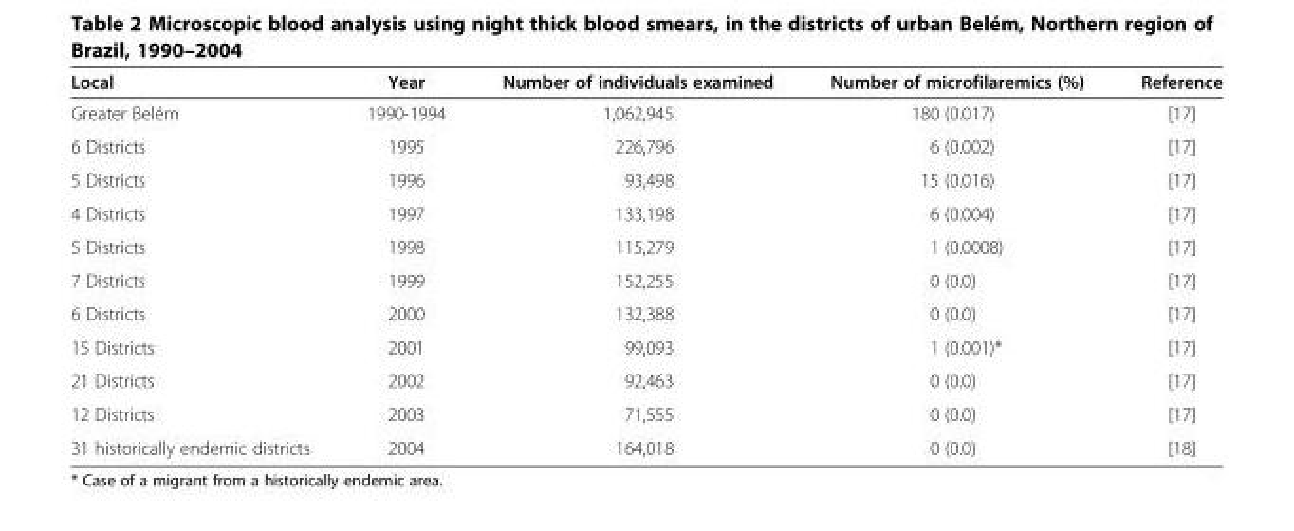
<table><thead><tr><td>Local</td><td>Year</td><td>Number of individuals examined</td><td>Number of microfilaremics (%)</td><td>Reference</td></tr></thead><tbody><tr><td>Greater Belém</td><td>1990-1994</td><td>1,062,945</td><td>180 (0.017)</td><td>[17]</td></tr><tr><td>6 Districts</td><td>1995</td><td>226,796</td><td>6 (0.002)</td><td>[17]</td></tr><tr><td>5 Districts</td><td>1996</td><td>93,498</td><td>15 (0.016)</td><td>[17]</td></tr><tr><td>4 Districts</td><td>1997</td><td>133,198</td><td>6 (0.004)</td><td>[17]</td></tr><tr><td>5 Districts</td><td>1998</td><td>115,279</td><td>1 (0.0008)</td><td>[17]</td></tr><tr><td>7 Districts</td><td>1999</td><td>152,255</td><td>0 (0.0)</td><td>[17]</td></tr><tr><td>6 Districts</td><td>2000</td><td>132,388</td><td>0 (0.0)</td><td>[17]</td></tr><tr><td>15 Districts</td><td>2001</td><td>99,093</td><td>1 (0.001)*</td><td>[17]</td></tr><tr><td>21 Districts</td><td>2002</td><td>92,463</td><td>0 (0.0)</td><td>[17]</td></tr><tr><td>12 Districts</td><td>2003</td><td>71,555</td><td>0 (0.0)</td><td>[17]</td></tr><tr><td>31 historically endemic districts</td><td>2004</td><td>164,018</td><td>0 (0.0)</td><td>[18]</td></tr></tbody></table>